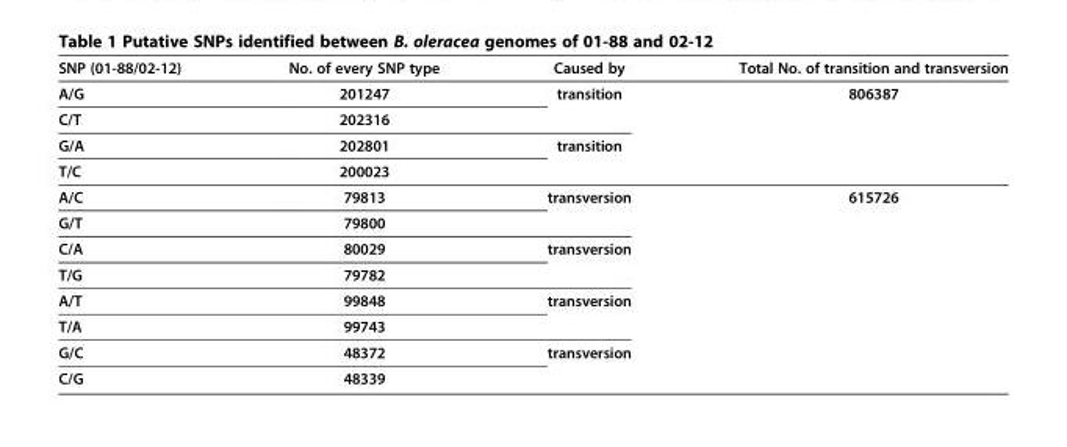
<table><thead><tr><td>SNP (01-88/02-12)</td><td>No. of every SNP type</td><td>Caused by</td><td>Total No. of transition and transversion</td></tr></thead><tbody><tr><td>A/G</td><td>201247</td><td rowspan="2">transition</td><td rowspan="4">806387</td></tr><tr><td>C/T</td><td>202316</td></tr><tr><td>G/A</td><td>202801</td><td rowspan="2">transition</td></tr><tr><td>T/C</td><td>200023</td></tr><tr><td>A/C</td><td>79813</td><td rowspan="2">transversion</td><td rowspan="8">615726</td></tr><tr><td>G/T</td><td>79800</td></tr><tr><td>C/A</td><td>80029</td><td rowspan="2">transversion</td></tr><tr><td>T/G</td><td>79782</td></tr><tr><td>A/T</td><td>99848</td><td rowspan="2">transversion</td></tr><tr><td>T/A</td><td>99743</td></tr><tr><td>G/C</td><td>48372</td><td rowspan="2">transversion</td></tr><tr><td>C/G</td><td>48339</td></tr></tbody></table>